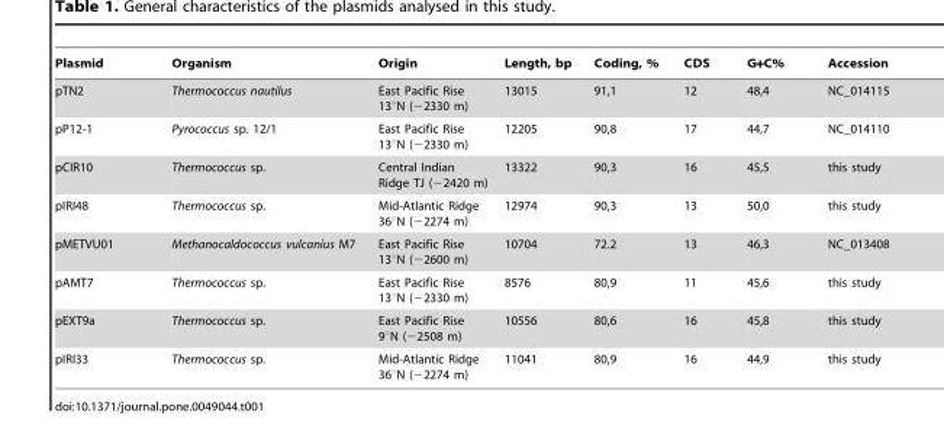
<table><thead><tr><td>Plasmid</td><td>Organism</td><td>Origin</td><td>Length, bp</td><td>Coding, %</td><td>CDS</td><td>G+C%</td><td>Accession</td></tr></thead><tbody><tr><td>pTN2</td><td>Thermococcus nautilus</td><td>East Pacific Rise 13°N (−2330 m)</td><td>13015</td><td>91,1</td><td>12</td><td>48,4</td><td>NC_014115</td></tr><tr><td>pP12-1</td><td>Pyrococcus sp. 12/1</td><td>East Pacific Rise 13°N (−2330 m)</td><td>12205</td><td>90,8</td><td>17</td><td>44,7</td><td>NC_014110</td></tr><tr><td>pCIR10</td><td>Thermococcus sp.</td><td>Central Indian Ridge TJ (−2420 m)</td><td>13322</td><td>90,3</td><td>16</td><td>45,5</td><td>this study</td></tr><tr><td>pIRI48</td><td>Thermococcus sp.</td><td>Mid-Atlantic Ridge 36°N (−2274 m)</td><td>12974</td><td>90,3</td><td>13</td><td>50,0</td><td>this study</td></tr><tr><td>pMETVU01</td><td>Methanocaldococcus vulcanius M7</td><td>East Pacific Rise 13°N (−2600 m)</td><td>10704</td><td>72.2</td><td>13</td><td>46,3</td><td>NC_013408</td></tr><tr><td>pAMT7</td><td>Thermococcus sp.</td><td>East Pacific Rise 13°N (−2330 m)</td><td>8576</td><td>80,9</td><td>11</td><td>45,6</td><td>this study</td></tr><tr><td>pEXT9a</td><td>Thermococcus sp.</td><td>East Pacific Rise 9°N (−2508 m)</td><td>10556</td><td>80,6</td><td>16</td><td>45,8</td><td>this study</td></tr><tr><td>pIRI33</td><td>Thermococcus sp.</td><td>Mid-Atlantic Ridge 36°N (−2274 m)</td><td>11041</td><td>80,9</td><td>16</td><td>44,9</td><td>this study</td></tr></tbody></table>